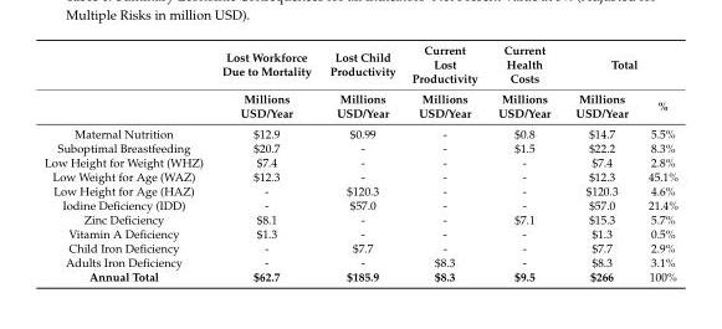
<table><thead><tr><td rowspan="2"></td><td rowspan="2">Lost Workforce Due to Mortality Millions USD/Year</td><td rowspan="2">Lost Child Productivity Millions USD/Year</td><td rowspan="2">Current Lost Productivity Millions USD/Year</td><td rowspan="2">Current Health Costs Millions USD/Year</td><td colspan="2">Total</td></tr><tr><td>Millions USD/Year</td><td>%</td></tr></thead><tbody><tr><td>Maternal Nutrition</td><td>$12.9</td><td>$0.99</td><td>-</td><td>$0.8</td><td>$14.7</td><td>5.5%</td></tr><tr><td>Suboptimal Breastfeeding</td><td>$20.7</td><td>-</td><td>-</td><td>$1.5</td><td>$22.2</td><td>8.3%</td></tr><tr><td>Low Height for Weight (WHZ)</td><td>$7.4</td><td>-</td><td>-</td><td>-</td><td>$7.4</td><td>2.8%</td></tr><tr><td>Low Weight for Age (WAZ)</td><td>$12.3</td><td>-</td><td>-</td><td>-</td><td>$12.3</td><td>45.1%</td></tr><tr><td>Low Height for Age (HAZ)</td><td>-</td><td>$120.3</td><td>-</td><td>-</td><td>$120.3</td><td>4.6%</td></tr><tr><td>Iodine Deficiency (IDD)</td><td>-</td><td>$57.0</td><td>-</td><td>-</td><td>$57.0</td><td>21.4%</td></tr><tr><td>Zinc Deficiency</td><td>$8.1</td><td>-</td><td>-</td><td>$7.1</td><td>$15.3</td><td>5.7%</td></tr><tr><td>Vitamin A Deficiency</td><td>$1.3</td><td>-</td><td>-</td><td>-</td><td>$1.3</td><td>0.5%</td></tr><tr><td>Child Iron Deficiency</td><td>-</td><td>$7.7</td><td>-</td><td>-</td><td>$7.7</td><td>2.9%</td></tr><tr><td>Adults Iron Deficiency</td><td>-</td><td>-</td><td>$8.3</td><td>-</td><td>$8.3</td><td>3.1%</td></tr><tr><td>Annual Total</td><td>$62.7</td><td>$185.9</td><td>$8.3</td><td>$9.5</td><td>$266</td><td>100%</td></tr></tbody></table>